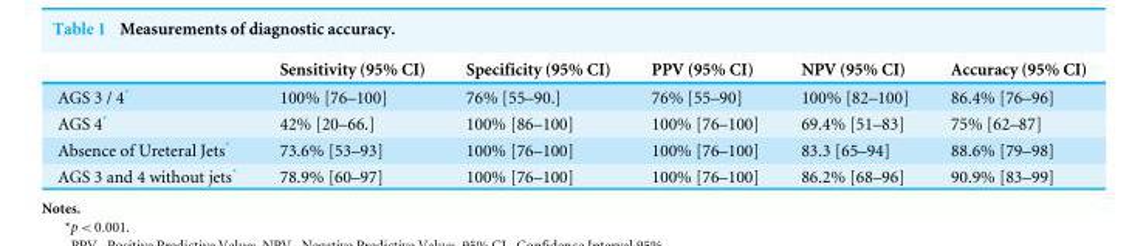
<table><thead><tr><td></td><td>Sensitivity (95% CI)</td><td>Specificity (95% CI)</td><td>PPV (95% CI)</td><td>NPV (95% CI)</td><td>Accuracy (95% CI)</td></tr></thead><tbody><tr><td>AGS 3 / 4*</td><td>100% [76–100]</td><td>76% [55–90.]</td><td>76% [55–90]</td><td>100% [82–100]</td><td>86.4% [76–96]</td></tr><tr><td>AGS 4*</td><td>42% [20–66.]</td><td>100% [86–100]</td><td>100% [76–100]</td><td>69.4% [51–83]</td><td>75% [62–87]</td></tr><tr><td>Absence of Ureteral Jets*</td><td>73.6% [53–93]</td><td>100% [76–100]</td><td>100% [76–100]</td><td>83.3 [65–94]</td><td>88.6% [79–98]</td></tr><tr><td>AGS 3 and 4 without jets*</td><td>78.9% [60–97]</td><td>100% [76–100]</td><td>100% [76–100]</td><td>86.2% [68–96]</td><td>90.9% [83–99]</td></tr></tbody></table>